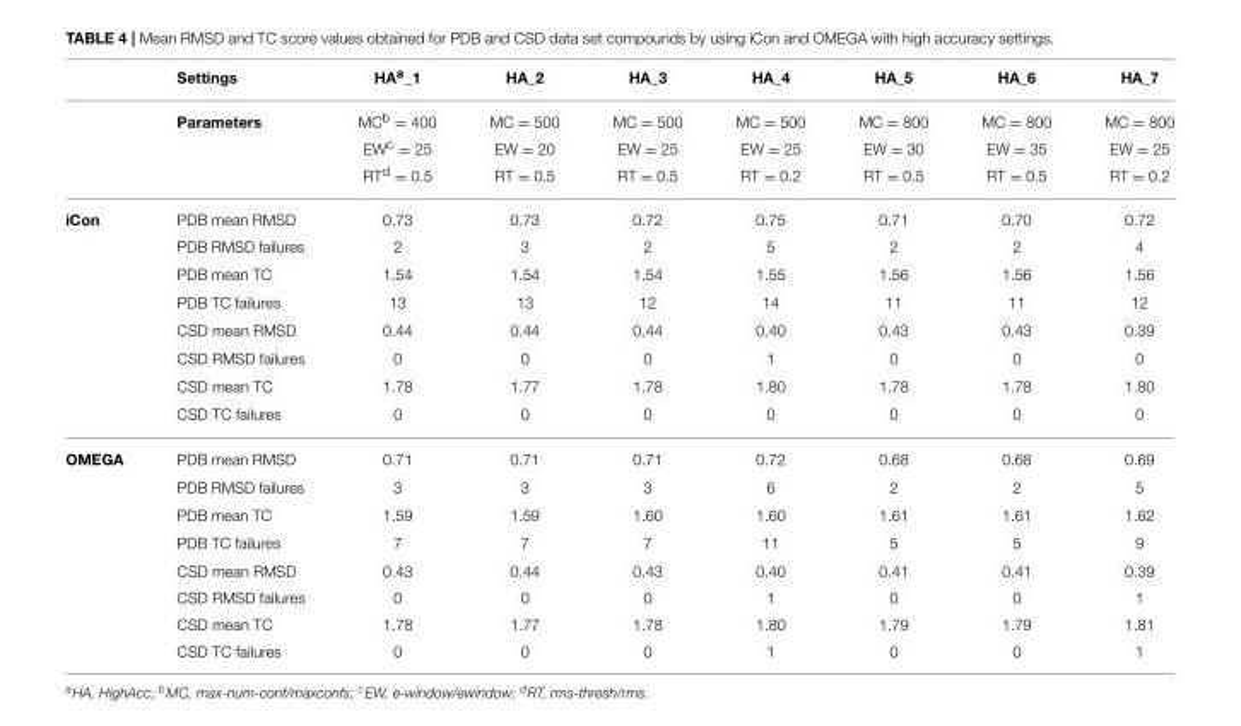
<table><thead><tr><td></td><td>Settings</td><td>HA<sup>a</sup>_1</td><td>HA_2</td><td>HA_3</td><td>HA_4</td><td>HA_5</td><td>HA_6</td><td>HA_7</td></tr></thead><tbody><tr><td></td><td>Parameters</td><td>MC<sup>b</sup> = 400</td><td>MC = 500</td><td>MC = 500</td><td>MC = 500</td><td>MC = 800</td><td>MC = 800</td><td>MC = 800</td></tr><tr><td></td><td></td><td>EW<sup>c</sup> = 25</td><td>EW = 20</td><td>EW = 25</td><td>EW = 25</td><td>EW = 30</td><td>EW = 35</td><td>EW = 25</td></tr><tr><td></td><td></td><td>RT<sup>d</sup> = 0.5</td><td>RT = 0.5</td><td>RT = 0.5</td><td>RT = 0.2</td><td>RT = 0.5</td><td>RT = 0.5</td><td>RT = 0.2</td></tr><tr><td rowspan="8">iCon</td><td>PDB mean RMSD</td><td>0.73</td><td>0.73</td><td>0.72</td><td>0.75</td><td>0.71</td><td>0.70</td><td>0.72</td></tr><tr><td>PDB RMSD failures</td><td>2</td><td>3</td><td>2</td><td>5</td><td>2</td><td>2</td><td>4</td></tr><tr><td>PDB mean TC</td><td>1.54</td><td>1.54</td><td>1.54</td><td>1.55</td><td>1.56</td><td>1.56</td><td>1.56</td></tr><tr><td>PDB TC failures</td><td>13</td><td>13</td><td>12</td><td>14</td><td>11</td><td>11</td><td>12</td></tr><tr><td>CSD mean RMSD</td><td>0.44</td><td>0.44</td><td>0.44</td><td>0.40</td><td>0.43</td><td>0.43</td><td>0.39</td></tr><tr><td>CSD RMSD failures</td><td>0</td><td>0</td><td>0</td><td>1</td><td>0</td><td>0</td><td>0</td></tr><tr><td>CSD mean TC</td><td>1.78</td><td>1.77</td><td>1.78</td><td>1.80</td><td>1.78</td><td>1.78</td><td>1.80</td></tr><tr><td>CSD TC failures</td><td>0</td><td>0</td><td>0</td><td>0</td><td>0</td><td>0</td><td>0</td></tr><tr><td rowspan="8">OMEGA</td><td>PDB mean RMSD</td><td>0.71</td><td>0.71</td><td>0.71</td><td>0.72</td><td>0.68</td><td>0.68</td><td>0.69</td></tr><tr><td>PDB RMSD failures</td><td>3</td><td>3</td><td>3</td><td>6</td><td>2</td><td>2</td><td>5</td></tr><tr><td>PDB mean TC</td><td>1.59</td><td>1.59</td><td>1.60</td><td>1.60</td><td>1.61</td><td>1.61</td><td>1.62</td></tr><tr><td>PDB TC failures</td><td>7</td><td>7</td><td>7</td><td>11</td><td>5</td><td>5</td><td>9</td></tr><tr><td>CSD mean RMSD</td><td>0.43</td><td>0.44</td><td>0.43</td><td>0.40</td><td>0.41</td><td>0.41</td><td>0.39</td></tr><tr><td>CSD RMSD failures</td><td>0</td><td>0</td><td>0</td><td>1</td><td>0</td><td>0</td><td>1</td></tr><tr><td>CSD mean TC</td><td>1.78</td><td>1.77</td><td>1.78</td><td>1.80</td><td>1.79</td><td>1.79</td><td>1.81</td></tr><tr><td>CSD TC failures</td><td>0</td><td>0</td><td>0</td><td>1</td><td>0</td><td>0</td><td>1</td></tr></tbody></table>